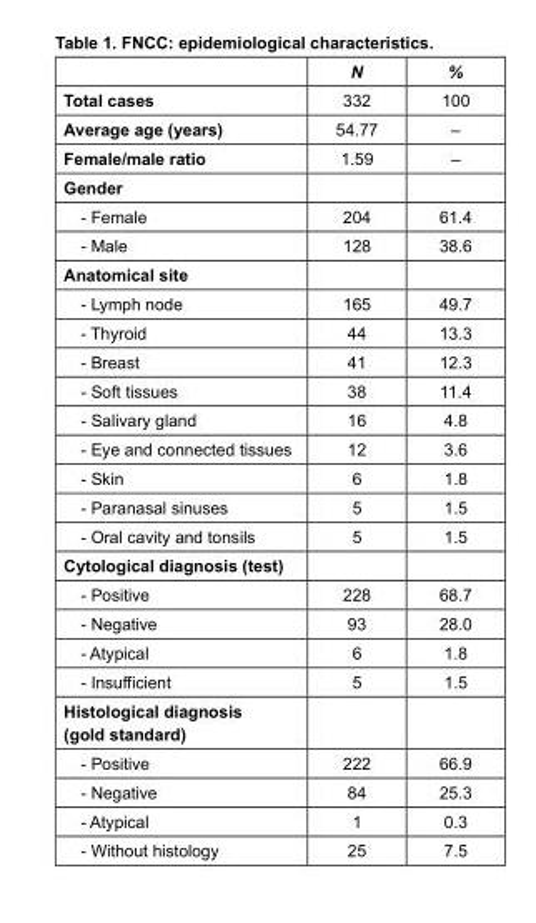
<table><thead><tr><td></td><td>N</td><td>%</td></tr></thead><tbody><tr><td>Total cases</td><td>332</td><td>100</td></tr><tr><td>Average age (years)</td><td>54.77</td><td>–</td></tr><tr><td>Female/male ratio</td><td>1.59</td><td>–</td></tr><tr><td colspan="3">Gender</td></tr><tr><td>- Female</td><td>204</td><td>61.4</td></tr><tr><td>- Male</td><td>128</td><td>38.6</td></tr><tr><td colspan="3">Anatomical site</td></tr><tr><td>- Lymph node</td><td>165</td><td>49.7</td></tr><tr><td>- Thyroid</td><td>44</td><td>13.3</td></tr><tr><td>- Breast</td><td>41</td><td>12.3</td></tr><tr><td>- Soft tissues</td><td>38</td><td>11.4</td></tr><tr><td>- Salivary gland</td><td>16</td><td>4.8</td></tr><tr><td>- Eye and connected tissues</td><td>12</td><td>3.6</td></tr><tr><td>- Skin</td><td>6</td><td>1.8</td></tr><tr><td>- Paranasal sinuses</td><td>5</td><td>1.5</td></tr><tr><td>- Oral cavity and tonsils</td><td>5</td><td>1.5</td></tr><tr><td colspan="3">Cytological diagnosis (test)</td></tr><tr><td>- Positive</td><td>228</td><td>68.7</td></tr><tr><td>- Negative</td><td>93</td><td>28.0</td></tr><tr><td>- Atypical</td><td>6</td><td>1.8</td></tr><tr><td>- Insufficient</td><td>5</td><td>1.5</td></tr><tr><td colspan="3">Histological diagnosis (gold standard)</td></tr><tr><td>- Positive</td><td>222</td><td>66.9</td></tr><tr><td>- Negative</td><td>84</td><td>25.3</td></tr><tr><td>- Atypical</td><td>1</td><td>0.3</td></tr><tr><td>- Without histology</td><td>25</td><td>7.5</td></tr></tbody></table>